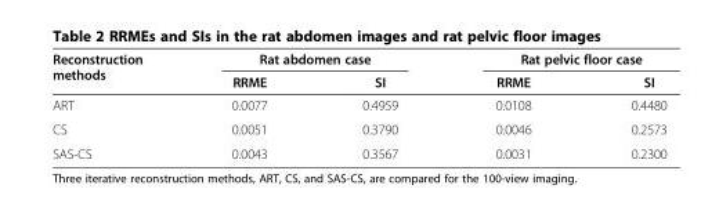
<table><thead><tr><td rowspan="2">Reconstruction methods</td><td colspan="2">Rat abdomen case</td><td colspan="2">Rat pelvic floor case</td></tr><tr><td>RRME</td><td>SI</td><td>RRME</td><td>SI</td></tr></thead><tbody><tr><td>ART</td><td>0.0077</td><td>0.4959</td><td>0.0108</td><td>0.4480</td></tr><tr><td>CS</td><td>0.0051</td><td>0.3790</td><td>0.0046</td><td>0.2573</td></tr><tr><td>SAS-CS</td><td>0.0043</td><td>0.3567</td><td>0.0031</td><td>0.2300</td></tr></tbody></table>